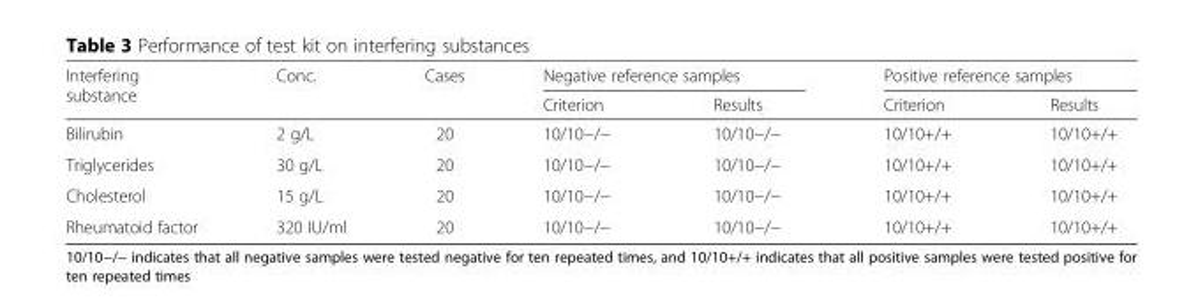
<table><thead><tr><td rowspan="2">Interfering substance</td><td rowspan="2">Conc.</td><td rowspan="2">Cases</td><td colspan="2">Negative reference samples</td><td colspan="2">Positive reference samples</td></tr><tr><td>Criterion</td><td>Results</td><td>Criterion</td><td>Results</td></tr></thead><tbody><tr><td>Bilirubin</td><td>2 g/L</td><td>20</td><td>10/10−/−</td><td>10/10−/−</td><td>10/10+/+</td><td>10/10+/+</td></tr><tr><td>Triglycerides</td><td>30 g/L</td><td>20</td><td>10/10−/−</td><td>10/10−/−</td><td>10/10+/+</td><td>10/10+/+</td></tr><tr><td>Cholesterol</td><td>15 g/L</td><td>20</td><td>10/10−/−</td><td>10/10−/−</td><td>10/10+/+</td><td>10/10+/+</td></tr><tr><td>Rheumatoid factor</td><td>320 IU/ml</td><td>20</td><td>10/10−/−</td><td>10/10−/−</td><td>10/10+/+</td><td>10/10+/+</td></tr></tbody></table>